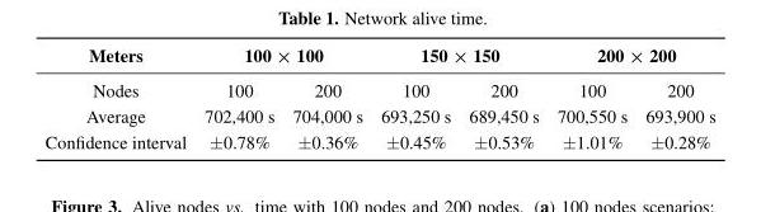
<table><thead><tr><td rowspan="2">Meters Nodes</td><td colspan="2">100 × 100</td><td colspan="2">150 × 150</td><td colspan="2">200 × 200</td></tr><tr><td>100</td><td>200</td><td>100</td><td>200</td><td>100</td><td>200</td></tr></thead><tbody><tr><td>Average</td><td>702,400 s</td><td>704,000 s</td><td>693,250 s</td><td>689,450 s</td><td>700,550 s</td><td>693,900 s</td></tr><tr><td>Confidence interval</td><td>±0.78%</td><td>±0.36%</td><td>±0.45%</td><td>±0.53%</td><td>±1.01%</td><td>±0.28%</td></tr></tbody></table>